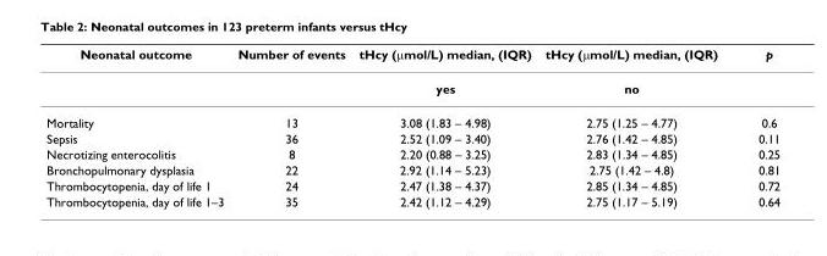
<table><thead><tr><td>Neonatal outcome</td><td>Number of events</td><td>tHcy (µmol/L) median, (IQR)</td><td>tHcy (µmol/L) median, (IQR)</td><td>p</td></tr></thead><tbody><tr><td></td><td></td><td>yes</td><td>no</td><td></td></tr><tr><td>Mortality</td><td>13</td><td>3.08 (1.83 – 4.98)</td><td>2.75 (1.25 – 4.77)</td><td>0.6</td></tr><tr><td>Sepsis</td><td>36</td><td>2.52 (1.09 – 3.40)</td><td>2.76 (1.42 – 4.85)</td><td>0.11</td></tr><tr><td>Necrotizing enterocolitis</td><td>8</td><td>2.20 (0.88 – 3.25)</td><td>2.83 (1.34 – 4.85)</td><td>0.25</td></tr><tr><td>Bronchopulmonary dysplasia</td><td>22</td><td>2.92 (1.14 – 5.23)</td><td>2.75 (1.42 – 4.8)</td><td>0.81</td></tr><tr><td>Thrombocytopenia, day of life 1</td><td>24</td><td>2.47 (1.38 – 4.37)</td><td>2.85 (1.34 – 4.85)</td><td>0.72</td></tr><tr><td>Thrombocytopenia, day of life 1–3</td><td>35</td><td>2.42 (1.12 – 4.29)</td><td>2.75 (1.17 – 5.19)</td><td>0.64</td></tr></tbody></table>